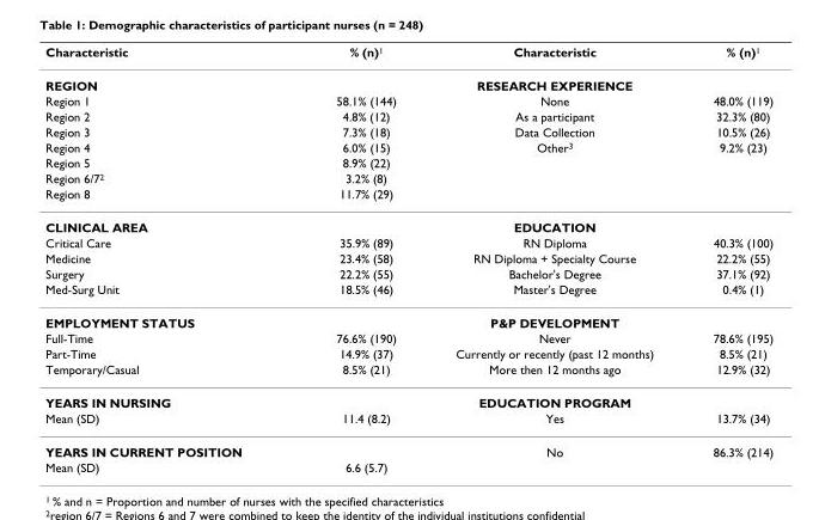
<table><thead><tr><td>Characteristic</td><td>% (n)<sup>1</sup></td><td>Characteristic</td><td>% (n)<sup>1</sup></td></tr></thead><tbody><tr><td>REGION</td><td></td><td>RESEARCH EXPERIENCE</td><td></td></tr><tr><td>Region 1</td><td>58.1% (144)</td><td>None</td><td>48.0% (119)</td></tr><tr><td>Region 2</td><td>4.8% (12)</td><td>As a participant</td><td>32.3% (80)</td></tr><tr><td>Region 3</td><td>7.3% (18)</td><td>Data Collection</td><td>10.5% (26)</td></tr><tr><td>Region 4</td><td>6.0% (15)</td><td>Other<sup>3</sup></td><td>9.2% (23)</td></tr><tr><td>Region 5</td><td>8.9% (22)</td><td></td><td></td></tr><tr><td>Region 6/7<sup>2</sup></td><td>3.2% (8)</td><td></td><td></td></tr><tr><td>Region 8</td><td>11.7% (29)</td><td></td><td></td></tr><tr><td>CLINICAL AREA</td><td></td><td>EDUCATION</td><td></td></tr><tr><td>Critical Care</td><td>35.9% (89)</td><td>RN Diploma</td><td>40.3% (100)</td></tr><tr><td>Medicine</td><td>23.4% (58)</td><td>RN Diploma + Specialty Course</td><td>22.2% (55)</td></tr><tr><td>Surgery</td><td>22.2% (55)</td><td>Bachelor&#x27;s Degree</td><td>37.1% (92)</td></tr><tr><td>Med-Surg Unit</td><td>18.5% (46)</td><td>Master&#x27;s Degree</td><td>0.4% (1)</td></tr><tr><td>EMPLOYMENT STATUS</td><td></td><td>P&amp;P DEVELOPMENT</td><td></td></tr><tr><td>Full-Time</td><td>76.6% (190)</td><td>Never</td><td>78.6% (195)</td></tr><tr><td>Part-Time</td><td>14.9% (37)</td><td>Currently or recently (past 12 months)</td><td>8.5% (21)</td></tr><tr><td>Temporary/Casual</td><td>8.5% (21)</td><td>More then 12 months ago</td><td>12.9% (32)</td></tr><tr><td>YEARS IN NURSING</td><td></td><td>EDUCATION PROGRAM</td><td></td></tr><tr><td>Mean (SD)</td><td>11.4 (8.2)</td><td>Yes</td><td>13.7% (34)</td></tr><tr><td>YEARS IN CURRENT POSITION</td><td></td><td>No</td><td>86.3% (214)</td></tr><tr><td>Mean (SD)</td><td>6.6 (5.7)</td><td></td><td></td></tr></tbody></table>